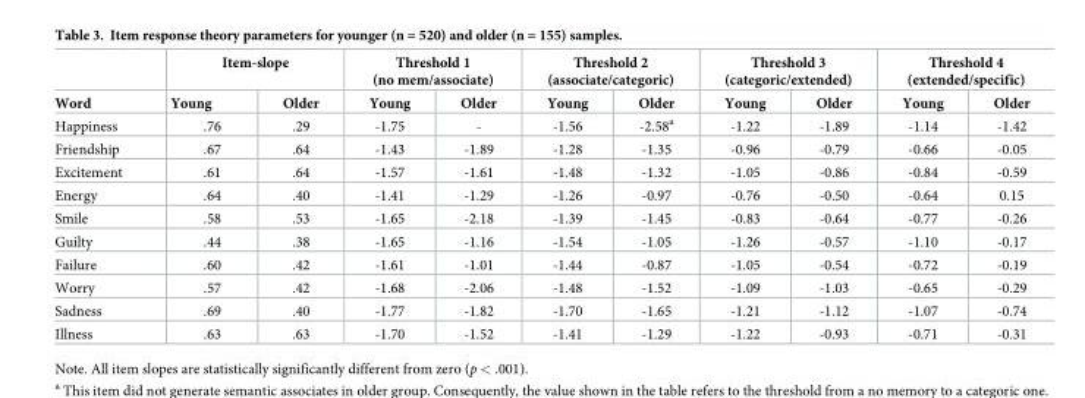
<table><thead><tr><td rowspan="2">Word</td><td colspan="2">Item-slope</td><td colspan="2">Threshold 1 (no mem/associate)</td><td colspan="2">Threshold 2 (associate/categoric)</td><td colspan="2">Threshold 3 (categoric/extended)</td><td colspan="2">Threshold 4 (extended/specific)</td></tr><tr><td>Young</td><td>Older</td><td>Young</td><td>Older</td><td>Young</td><td>Older</td><td>Young</td><td>Older</td><td>Young</td><td>Older</td></tr></thead><tbody><tr><td>Happiness</td><td>.76</td><td>.29</td><td>-1.75</td><td>-</td><td>-1.56</td><td>-2.58<sup>a</sup></td><td>-1.22</td><td>-1.89</td><td>-1.14</td><td>-1.42</td></tr><tr><td>Friendship</td><td>.67</td><td>.64</td><td>-1.43</td><td>-1.89</td><td>-1.28</td><td>-1.35</td><td>-0.96</td><td>-0.79</td><td>-0.66</td><td>-0.05</td></tr><tr><td>Excitement</td><td>.61</td><td>.64</td><td>-1.57</td><td>-1.61</td><td>-1.48</td><td>-1.32</td><td>-1.05</td><td>-0.86</td><td>-0.84</td><td>-0.59</td></tr><tr><td>Energy</td><td>.64</td><td>.40</td><td>-1.41</td><td>-1.29</td><td>-1.26</td><td>-0.97</td><td>-0.76</td><td>-0.50</td><td>-0.64</td><td>0.15</td></tr><tr><td>Smile</td><td>.58</td><td>.53</td><td>-1.65</td><td>-2.18</td><td>-1.39</td><td>-1.45</td><td>-0.83</td><td>-0.64</td><td>-0.77</td><td>-0.26</td></tr><tr><td>Guilty</td><td>.44</td><td>.38</td><td>-1.65</td><td>-1.16</td><td>-1.54</td><td>-1.05</td><td>-1.26</td><td>-0.57</td><td>-1.10</td><td>-0.17</td></tr><tr><td>Failure</td><td>.60</td><td>.42</td><td>-1.61</td><td>-1.01</td><td>-1.44</td><td>-0.87</td><td>-1.05</td><td>-0.54</td><td>-0.72</td><td>-0.19</td></tr><tr><td>Worry</td><td>.57</td><td>.42</td><td>-1.68</td><td>-2.06</td><td>-1.48</td><td>-1.52</td><td>-1.09</td><td>-1.03</td><td>-0.65</td><td>-0.29</td></tr><tr><td>Sadness</td><td>.69</td><td>.40</td><td>-1.77</td><td>-1.82</td><td>-1.70</td><td>-1.65</td><td>-1.21</td><td>-1.12</td><td>-1.07</td><td>-0.74</td></tr><tr><td>Illness</td><td>.63</td><td>.63</td><td>-1.70</td><td>-1.52</td><td>-1.41</td><td>-1.29</td><td>-1.22</td><td>-0.93</td><td>-0.71</td><td>-0.31</td></tr></tbody></table>